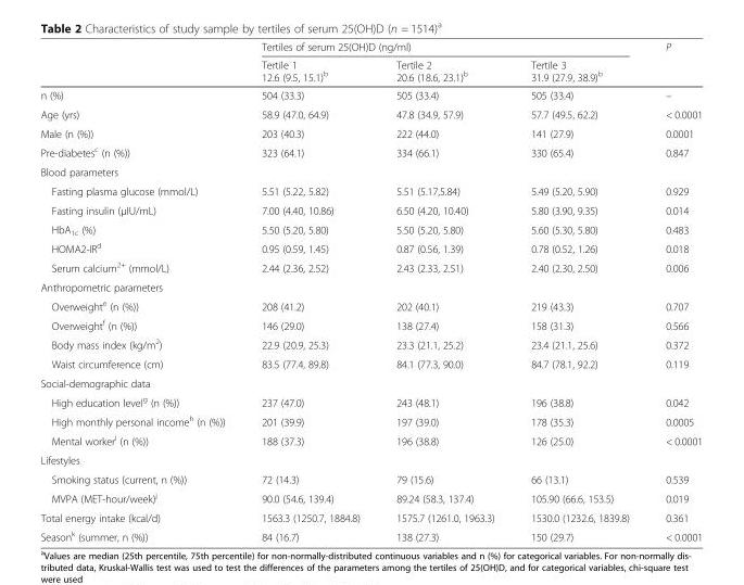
<table><thead><tr><td rowspan="2"></td><td colspan="3">Tertiles of serum 25(OH)D (ng/ml)</td><td rowspan="2">P</td></tr><tr><td>Tertile 1 12.6 (9.5, 15.1)<sup>b</sup></td><td>Tertile 2 20.6 (18.6, 23.1)<sup>b</sup></td><td>Tertile 3 31.9 (27.9, 38.9)<sup>b</sup></td></tr></thead><tbody><tr><td>n (%)</td><td>504 (33.3)</td><td>505 (33.4)</td><td>505 (33.4)</td><td>–</td></tr><tr><td>Age (yrs)</td><td>58.9 (47.0, 64.9)</td><td>47.8 (34.9, 57.9)</td><td>57.7 (49.5, 62.2)</td><td>&lt; 0.0001</td></tr><tr><td>Male (n (%))</td><td>203 (40.3)</td><td>222 (44.0)</td><td>141 (27.9)</td><td>0.0001</td></tr><tr><td>Pre-diabetes<sup>c</sup> (n (%))</td><td>323 (64.1)</td><td>334 (66.1)</td><td>330 (65.4)</td><td>0.847</td></tr><tr><td colspan="5">Blood parameters</td></tr><tr><td>Fasting plasma glucose (mmol/L)</td><td>5.51 (5.22, 5.82)</td><td>5.51 (5.17,5.84)</td><td>5.49 (5.20, 5.90)</td><td>0.929</td></tr><tr><td>Fasting insulin (μIU/mL)</td><td>7.00 (4.40, 10.86)</td><td>6.50 (4.20, 10.40)</td><td>5.80 (3.90, 9.35)</td><td>0.014</td></tr><tr><td>HbA<sub>1c</sub> (%)</td><td>5.50 (5.20, 5.80)</td><td>5.50 (5.20, 5.80)</td><td>5.60 (5.30, 5.80)</td><td>0.483</td></tr><tr><td>HOMA2-IR<sup>d</sup></td><td>0.95 (0.59, 1.45)</td><td>0.87 (0.56, 1.39)</td><td>0.78 (0.52, 1.26)</td><td>0.018</td></tr><tr><td>Serum calcium<sup>2+</sup> (mmol/L)</td><td>2.44 (2.36, 2.52)</td><td>2.43 (2.33, 2.51)</td><td>2.40 (2.30, 2.50)</td><td>0.006</td></tr><tr><td colspan="5">Anthropometric parameters</td></tr><tr><td>Overweight<sup>e</sup> (n (%))</td><td>208 (41.2)</td><td>202 (40.1)</td><td>219 (43.3)</td><td>0.707</td></tr><tr><td>Overweight<sup>f</sup> (n (%))</td><td>146 (29.0)</td><td>138 (27.4)</td><td>158 (31.3)</td><td>0.566</td></tr><tr><td>Body mass index (kg/m<sup>2</sup>)</td><td>22.9 (20.9, 25.3)</td><td>23.3 (21.1, 25.2)</td><td>23.4 (21.1, 25.6)</td><td>0.372</td></tr><tr><td>Waist circumference (cm)</td><td>83.5 (77.4, 89.8)</td><td>84.1 (77.3, 90.0)</td><td>84.7 (78.1, 92.2)</td><td>0.119</td></tr><tr><td colspan="5">Social-demographic data</td></tr><tr><td>High education level<sup>g</sup> (n (%))</td><td>237 (47.0)</td><td>243 (48.1)</td><td>196 (38.8)</td><td>0.042</td></tr><tr><td>High monthly personal income<sup>h</sup> (n (%))</td><td>201 (39.9)</td><td>197 (39.0)</td><td>178 (35.3)</td><td>0.0005</td></tr><tr><td>Mental worker<sup>i</sup> (n (%))</td><td>188 (37.3)</td><td>196 (38.8)</td><td>126 (25.0)</td><td>&lt; 0.0001</td></tr><tr><td colspan="5">Lifestyles</td></tr><tr><td>Smoking status (current, n (%))</td><td>72 (14.3)</td><td>79 (15.6)</td><td>66 (13.1)</td><td>0.539</td></tr><tr><td>MVPA (MET-hour/week)<sup>j</sup></td><td>90.0 (54.6, 139.4)</td><td>89.24 (58.3, 137.4)</td><td>105.90 (66.6, 153.5)</td><td>0.019</td></tr><tr><td>Total energy intake (kcal/d)</td><td>1563.3 (1250.7, 1884.8)</td><td>1575.7 (1261.0, 1963.3)</td><td>1530.0 (1232.6, 1839.8)</td><td>0.361</td></tr><tr><td>Season<sup>k</sup> (summer, n (%))</td><td>84 (16.7)</td><td>138 (27.3)</td><td>150 (29.7)</td><td>&lt; 0.0001</td></tr></tbody></table>